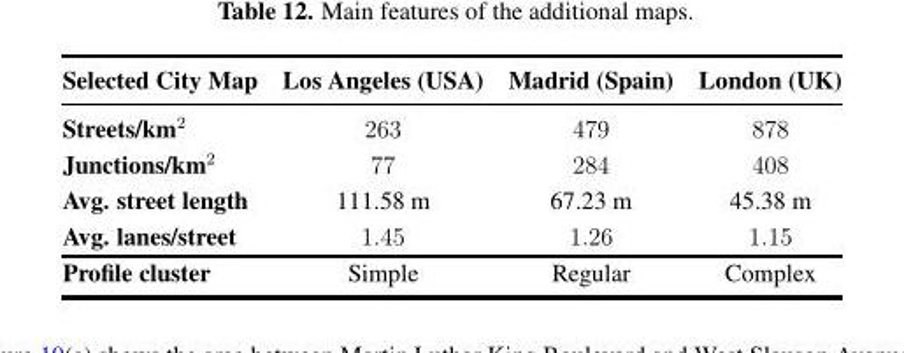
<table><thead><tr><td>Selected City Map</td><td>Los Angeles (USA)</td><td>Madrid (Spain)</td><td>London (UK)</td></tr></thead><tbody><tr><td>Streets/km<sup>2</sup></td><td>263</td><td>479</td><td>878</td></tr><tr><td>Junctions/km<sup>2</sup></td><td>77</td><td>284</td><td>408</td></tr><tr><td>Avg. street length</td><td>111.58 m</td><td>67.23 m</td><td>45.38 m</td></tr><tr><td>Avg. lanes/street</td><td>1.45</td><td>1.26</td><td>1.15</td></tr><tr><td>Profile cluster</td><td>Simple</td><td>Regular</td><td>Complex</td></tr></tbody></table>